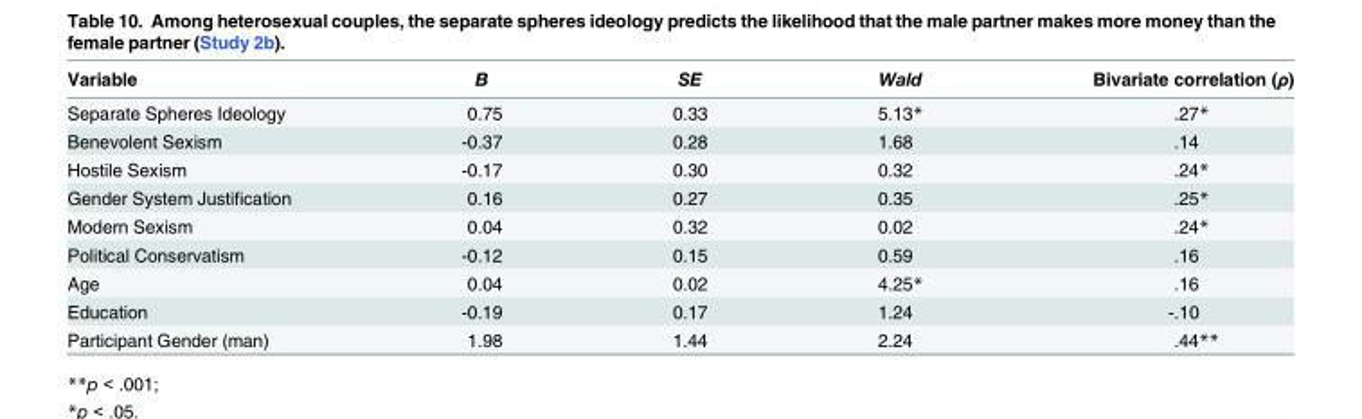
<table><thead><tr><td>Variable</td><td>B</td><td>SE</td><td>Wald</td><td>Bivariate correlation (ρ)</td></tr></thead><tbody><tr><td>Separate Spheres Ideology</td><td>0.75</td><td>0.33</td><td>5.13*</td><td>.27*</td></tr><tr><td>Benevolent Sexism</td><td>-0.37</td><td>0.28</td><td>1.68</td><td>.14</td></tr><tr><td>Hostile Sexism</td><td>-0.17</td><td>0.30</td><td>0.32</td><td>.24*</td></tr><tr><td>Gender System Justification</td><td>0.16</td><td>0.27</td><td>0.35</td><td>.25*</td></tr><tr><td>Modern Sexism</td><td>0.04</td><td>0.32</td><td>0.02</td><td>.24*</td></tr><tr><td>Political Conservatism</td><td>-0.12</td><td>0.15</td><td>0.59</td><td>.16</td></tr><tr><td>Age</td><td>0.04</td><td>0.02</td><td>4.25*</td><td>.16</td></tr><tr><td>Education</td><td>-0.19</td><td>0.17</td><td>1.24</td><td>-.10</td></tr><tr><td>Participant Gender (man)</td><td>1.98</td><td>1.44</td><td>2.24</td><td>.44**</td></tr></tbody></table>